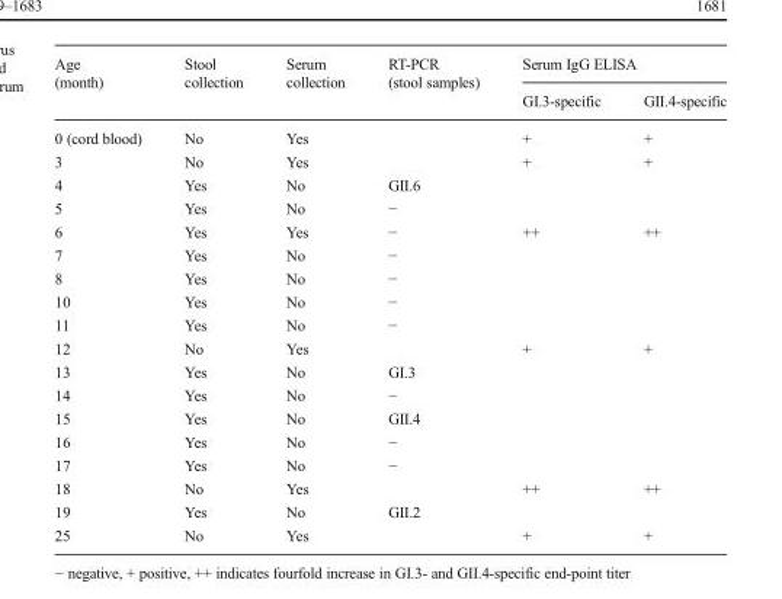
<table><thead><tr><td rowspan="2">Age (month)</td><td rowspan="2">Stool collection</td><td rowspan="2">Serum collection</td><td rowspan="2">RT-PCR (stool samples)</td><td colspan="2">Serum IgG ELISA</td></tr><tr><td>GI.3-specific</td><td>GII.4-specific</td></tr></thead><tbody><tr><td>0 (cord blood)</td><td>No</td><td>Yes</td><td></td><td>+</td><td>+</td></tr><tr><td>3</td><td>No</td><td>Yes</td><td></td><td>+</td><td>+</td></tr><tr><td>4</td><td>Yes</td><td>No</td><td>GII.6</td><td></td><td></td></tr><tr><td>5</td><td>Yes</td><td>No</td><td>−</td><td></td><td></td></tr><tr><td>6</td><td>Yes</td><td>Yes</td><td>−</td><td>++</td><td>++</td></tr><tr><td>7</td><td>Yes</td><td>No</td><td>−</td><td></td><td></td></tr><tr><td>8</td><td>Yes</td><td>No</td><td>−</td><td></td><td></td></tr><tr><td>10</td><td>Yes</td><td>No</td><td>−</td><td></td><td></td></tr><tr><td>11</td><td>Yes</td><td>No</td><td>−</td><td></td><td></td></tr><tr><td>12</td><td>No</td><td>Yes</td><td></td><td>+</td><td>+</td></tr><tr><td>13</td><td>Yes</td><td>No</td><td>GI.3</td><td></td><td></td></tr><tr><td>14</td><td>Yes</td><td>No</td><td>−</td><td></td><td></td></tr><tr><td>15</td><td>Yes</td><td>No</td><td>GII.4</td><td></td><td></td></tr><tr><td>16</td><td>Yes</td><td>No</td><td>−</td><td></td><td></td></tr><tr><td>17</td><td>Yes</td><td>No</td><td>−</td><td></td><td></td></tr><tr><td>18</td><td>No</td><td>Yes</td><td></td><td>++</td><td>++</td></tr><tr><td>19</td><td>Yes</td><td>No</td><td>GII.2</td><td></td><td></td></tr><tr><td>25</td><td>No</td><td>Yes</td><td></td><td>+</td><td>+</td></tr></tbody></table>